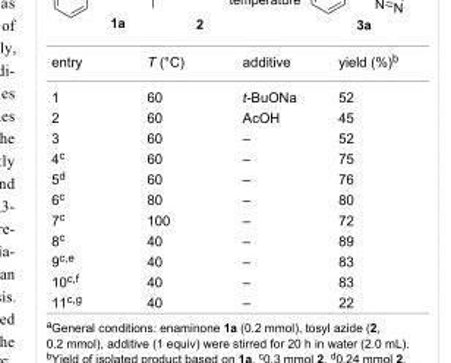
<table><tbody><tr><td>entry</td><td>T (°C)</td><td>additive</td><td>yield (%)<sup>b</sup></td></tr><tr><td>1</td><td>60</td><td>t-BuONa</td><td>52</td></tr><tr><td>2</td><td>60</td><td>AcOH</td><td>45</td></tr><tr><td>3</td><td>60</td><td>–</td><td>52</td></tr><tr><td>4<sup>c</sup></td><td>60</td><td>–</td><td>75</td></tr><tr><td>5<sup>d</sup></td><td>60</td><td>–</td><td>76</td></tr><tr><td>6<sup>c</sup></td><td>80</td><td>–</td><td>80</td></tr><tr><td>7<sup>c</sup></td><td>100</td><td>–</td><td>72</td></tr><tr><td>8<sup>c</sup></td><td>40</td><td>–</td><td>89</td></tr><tr><td>9<sup>c,e</sup></td><td>40</td><td>–</td><td>83</td></tr><tr><td>10<sup>c,f</sup></td><td>40</td><td>–</td><td>83</td></tr><tr><td>11<sup>c,g</sup></td><td>40</td><td>–</td><td>22</td></tr></tbody></table>